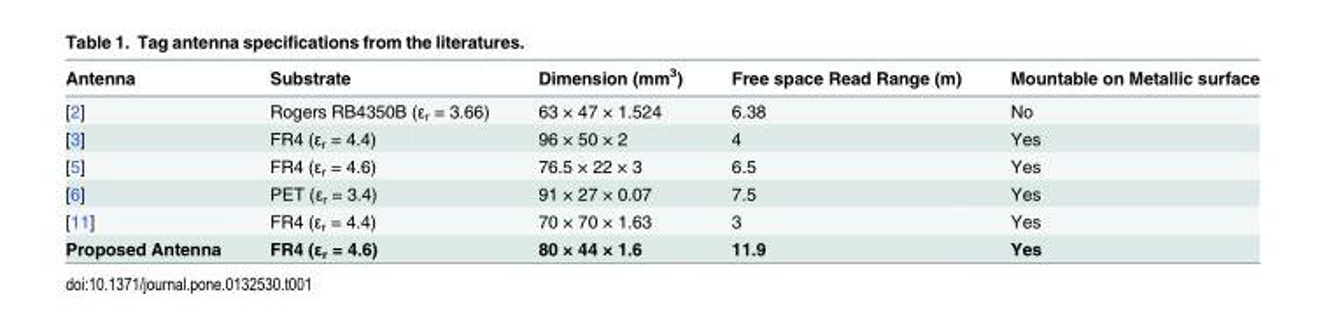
<table><thead><tr><td>Antenna</td><td>Substrate</td><td>Dimension (mm<sup>3</sup>)</td><td>Free space Read Range (m)</td><td>Mountable on Metallic surface</td></tr></thead><tbody><tr><td>[2]</td><td>Rogers RB4350B (εr = 3.66)</td><td>63 × 47 × 1.524</td><td>6.38</td><td>No</td></tr><tr><td>[3]</td><td>FR4 (εr = 4.4)</td><td>96 × 50 × 2</td><td>4</td><td>Yes</td></tr><tr><td>[5]</td><td>FR4 (εr = 4.6)</td><td>76.5 × 22 × 3</td><td>6.5</td><td>Yes</td></tr><tr><td>[6]</td><td>PET (εr = 3.4)</td><td>91 × 27 × 0.07</td><td>7.5</td><td>Yes</td></tr><tr><td>[11]</td><td>FR4 (εr = 4.4)</td><td>70 × 70 × 1.63</td><td>3</td><td>Yes</td></tr><tr><td>Proposed Antenna</td><td>FR4 (εr = 4.6)</td><td>80 × 44 × 1.6</td><td>11.9</td><td>Yes</td></tr></tbody></table>